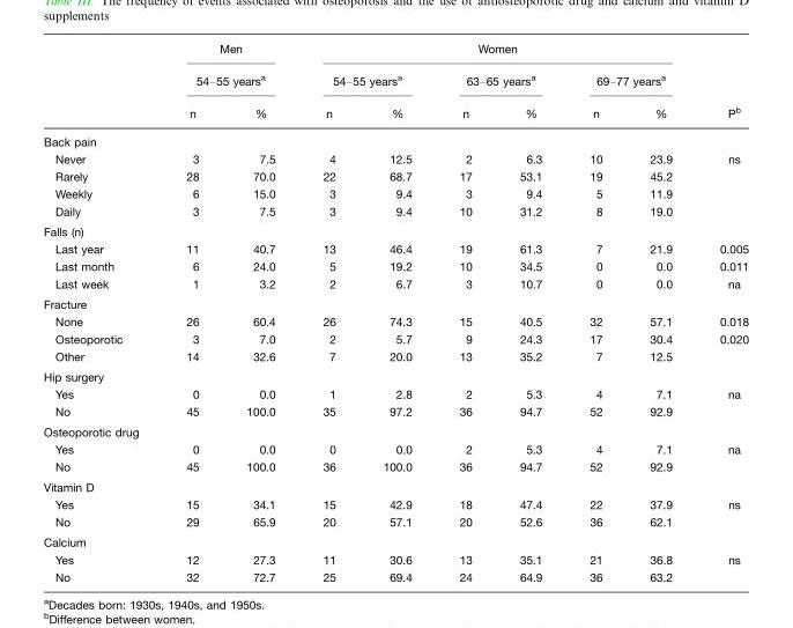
<table><thead><tr><td rowspan="3"></td><td rowspan="2" colspan="2">Men 54–55 years<sup>a</sup></td><td colspan="6">Women</td><td rowspan="3">P<sup>b</sup></td></tr><tr><td colspan="2">54–55 years<sup>a</sup></td><td colspan="2">63–65 years<sup>a</sup></td><td colspan="2">69–77 years<sup>a</sup></td></tr><tr><td>n</td><td>%</td><td>n</td><td>%</td><td>n</td><td>%</td><td>n</td><td>%</td></tr></thead><tbody><tr><td colspan="10">Back pain</td></tr><tr><td>Never</td><td>3</td><td>7.5</td><td>4</td><td>12.5</td><td>2</td><td>6.3</td><td>10</td><td>23.9</td><td>ns</td></tr><tr><td>Rarely</td><td>28</td><td>70.0</td><td>22</td><td>68.7</td><td>17</td><td>53.1</td><td>19</td><td>45.2</td><td></td></tr><tr><td>Weekly</td><td>6</td><td>15.0</td><td>3</td><td>9.4</td><td>3</td><td>9.4</td><td>5</td><td>11.9</td><td></td></tr><tr><td>Daily</td><td>3</td><td>7.5</td><td>3</td><td>9.4</td><td>10</td><td>31.2</td><td>8</td><td>19.0</td><td></td></tr><tr><td colspan="10">Falls (n)</td></tr><tr><td>Last year</td><td>11</td><td>40.7</td><td>13</td><td>46.4</td><td>19</td><td>61.3</td><td>7</td><td>21.9</td><td>0.005</td></tr><tr><td>Last month</td><td>6</td><td>24.0</td><td>5</td><td>19.2</td><td>10</td><td>34.5</td><td>0</td><td>0.0</td><td>0.011</td></tr><tr><td>Last week</td><td>1</td><td>3.2</td><td>2</td><td>6.7</td><td>3</td><td>10.7</td><td>0</td><td>0.0</td><td>na</td></tr><tr><td colspan="10">Fracture</td></tr><tr><td>None</td><td>26</td><td>60.4</td><td>26</td><td>74.3</td><td>15</td><td>40.5</td><td>32</td><td>57.1</td><td>0.018</td></tr><tr><td>Osteoporotic</td><td>3</td><td>7.0</td><td>2</td><td>5.7</td><td>9</td><td>24.3</td><td>17</td><td>30.4</td><td>0.020</td></tr><tr><td>Other</td><td>14</td><td>32.6</td><td>7</td><td>20.0</td><td>13</td><td>35.2</td><td>7</td><td>12.5</td><td></td></tr><tr><td colspan="10">Hip surgery</td></tr><tr><td>Yes</td><td>0</td><td>0.0</td><td>1</td><td>2.8</td><td>2</td><td>5.3</td><td>4</td><td>7.1</td><td>na</td></tr><tr><td>No</td><td>45</td><td>100.0</td><td>35</td><td>97.2</td><td>36</td><td>94.7</td><td>52</td><td>92.9</td><td></td></tr><tr><td colspan="10">Osteoporotic drug</td></tr><tr><td>Yes</td><td>0</td><td>0.0</td><td>0</td><td>0.0</td><td>2</td><td>5.3</td><td>4</td><td>7.1</td><td>na</td></tr><tr><td>No</td><td>45</td><td>100.0</td><td>36</td><td>100.0</td><td>36</td><td>94.7</td><td>52</td><td>92.9</td><td></td></tr><tr><td colspan="10">Vitamin D</td></tr><tr><td>Yes</td><td>15</td><td>34.1</td><td>15</td><td>42.9</td><td>18</td><td>47.4</td><td>22</td><td>37.9</td><td>ns</td></tr><tr><td>No</td><td>29</td><td>65.9</td><td>20</td><td>57.1</td><td>20</td><td>52.6</td><td>36</td><td>62.1</td><td></td></tr><tr><td colspan="10">Calcium</td></tr><tr><td>Yes</td><td>12</td><td>27.3</td><td>11</td><td>30.6</td><td>13</td><td>35.1</td><td>21</td><td>36.8</td><td>ns</td></tr><tr><td>No</td><td>32</td><td>72.7</td><td>25</td><td>69.4</td><td>24</td><td>64.9</td><td>36</td><td>63.2</td><td></td></tr></tbody></table>